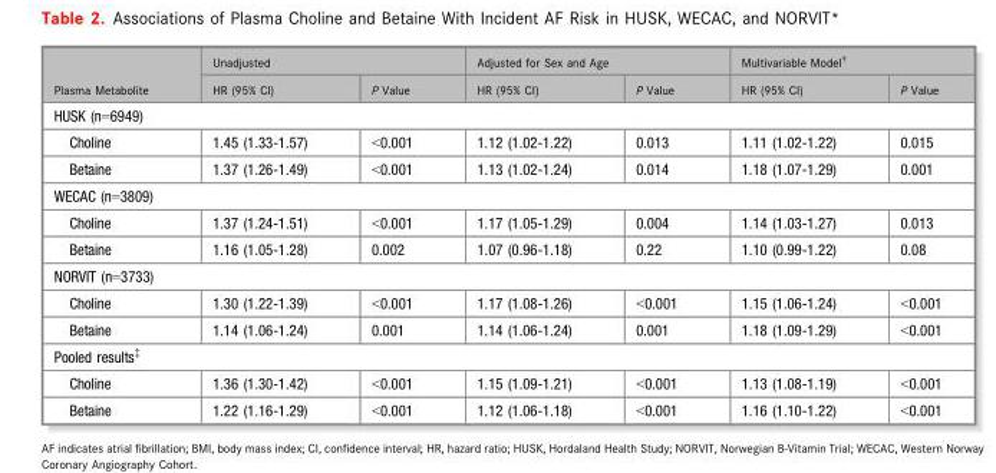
<table><thead><tr><td rowspan="2">Plasma Metabolite</td><td colspan="2">Unadjusted</td><td colspan="2">Adjusted for Sex and Age</td><td colspan="2">Multivariable Model†</td></tr><tr><td>HR (95% CI)</td><td>P Value</td><td>HR (95% CI)</td><td>P Value</td><td>HR (95% CI)</td><td>P Value</td></tr></thead><tbody><tr><td colspan="7">HUSK (n=6949)</td></tr><tr><td>Choline</td><td>1.45 (1.33-1.57)</td><td>&lt;0.001</td><td>1.12 (1.02-1.22)</td><td>0.013</td><td>1.11 (1.02-1.22)</td><td>0.015</td></tr><tr><td>Betaine</td><td>1.37 (1.26-1.49)</td><td>&lt;0.001</td><td>1.13 (1.02-1.24)</td><td>0.014</td><td>1.18 (1.07-1.29)</td><td>0.001</td></tr><tr><td colspan="7">WECAC (n=3809)</td></tr><tr><td>Choline</td><td>1.37 (1.24-1.51)</td><td>&lt;0.001</td><td>1.17 (1.05-1.29)</td><td>0.004</td><td>1.14 (1.03-1.27)</td><td>0.013</td></tr><tr><td>Betaine</td><td>1.16 (1.05-1.28)</td><td>0.002</td><td>1.07 (0.96-1.18)</td><td>0.22</td><td>1.10 (0.99-1.22)</td><td>0.08</td></tr><tr><td colspan="7">NORVIT (n=3733)</td></tr><tr><td>Choline</td><td>1.30 (1.22-1.39)</td><td>&lt;0.001</td><td>1.17 (1.08-1.26)</td><td>&lt;0.001</td><td>1.15 (1.06-1.24)</td><td>&lt;0.001</td></tr><tr><td>Betaine</td><td>1.14 (1.06-1.24)</td><td>0.001</td><td>1.14 (1.06-1.24)</td><td>0.001</td><td>1.18 (1.09-1.29)</td><td>&lt;0.001</td></tr><tr><td colspan="7">Pooled results‡</td></tr><tr><td>Choline</td><td>1.36 (1.30-1.42)</td><td>&lt;0.001</td><td>1.15 (1.09-1.21)</td><td>&lt;0.001</td><td>1.13 (1.08-1.19)</td><td>&lt;0.001</td></tr><tr><td>Betaine</td><td>1.22 (1.16-1.29)</td><td>&lt;0.001</td><td>1.12 (1.06-1.18)</td><td>&lt;0.001</td><td>1.16 (1.10-1.22)</td><td>&lt;0.001</td></tr></tbody></table>